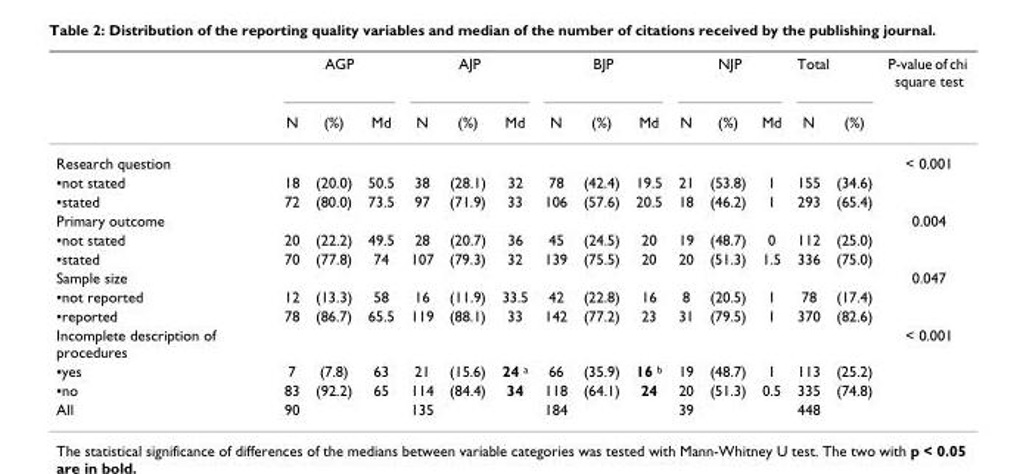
<table><thead><tr><td rowspan="2"></td><td colspan="3">AGP</td><td colspan="3">AJP</td><td colspan="3">BJP</td><td colspan="3">NJP</td><td colspan="2">Total</td><td rowspan="2">P-value of chi square test</td></tr><tr><td>N</td><td>(%)</td><td>Md</td><td>N</td><td>(%)</td><td>Md</td><td>N</td><td>(%)</td><td>Md</td><td>N</td><td>(%)</td><td>Md</td><td>N</td><td>(%)</td></tr></thead><tbody><tr><td>Research question</td><td></td><td></td><td></td><td></td><td></td><td></td><td></td><td></td><td></td><td></td><td></td><td></td><td></td><td></td><td>&lt; 0.001</td></tr><tr><td>▪not stated</td><td>18</td><td>(20.0)</td><td>50.5</td><td>38</td><td>(28.1)</td><td>32</td><td>78</td><td>(42.4)</td><td>19.5</td><td>21</td><td>(53.8)</td><td>1</td><td>155</td><td>(34.6)</td><td></td></tr><tr><td>▪stated</td><td>72</td><td>(80.0)</td><td>73.5</td><td>97</td><td>(71.9)</td><td>33</td><td>106</td><td>(57.6)</td><td>20.5</td><td>18</td><td>(46.2)</td><td>1</td><td>293</td><td>(65.4)</td><td></td></tr><tr><td>Primary outcome</td><td></td><td></td><td></td><td></td><td></td><td></td><td></td><td></td><td></td><td></td><td></td><td></td><td></td><td></td><td>0.004</td></tr><tr><td>▪not stated</td><td>20</td><td>(22.2)</td><td>49.5</td><td>28</td><td>(20.7)</td><td>36</td><td>45</td><td>(24.5)</td><td>20</td><td>19</td><td>(48.7)</td><td>0</td><td>112</td><td>(25.0)</td><td></td></tr><tr><td>▪stated</td><td>70</td><td>(77.8)</td><td>74</td><td>107</td><td>(79.3)</td><td>32</td><td>139</td><td>(75.5)</td><td>20</td><td>20</td><td>(51.3)</td><td>1.5</td><td>336</td><td>(75.0)</td><td></td></tr><tr><td>Sample size</td><td></td><td></td><td></td><td></td><td></td><td></td><td></td><td></td><td></td><td></td><td></td><td></td><td></td><td></td><td>0.047</td></tr><tr><td>▪not reported</td><td>12</td><td>(13.3)</td><td>58</td><td>16</td><td>(11.9)</td><td>33.5</td><td>42</td><td>(22.8)</td><td>16</td><td>8</td><td>(20.5)</td><td>1</td><td>78</td><td>(17.4)</td><td></td></tr><tr><td>▪reported</td><td>78</td><td>(86.7)</td><td>65.5</td><td>119</td><td>(88.1)</td><td>33</td><td>142</td><td>(77.2)</td><td>23</td><td>31</td><td>(79.5)</td><td>1</td><td>370</td><td>(82.6)</td><td></td></tr><tr><td>Incomplete description of procedures</td><td></td><td></td><td></td><td></td><td></td><td></td><td></td><td></td><td></td><td></td><td></td><td></td><td></td><td></td><td>&lt; 0.001</td></tr><tr><td>▪yes</td><td>7</td><td>(7.8)</td><td>63</td><td>21</td><td>(15.6)</td><td>24 <sup>a</sup></td><td>66</td><td>(35.9)</td><td>16 <sup>b</sup></td><td>19</td><td>(48.7)</td><td>1</td><td>113</td><td>(25.2)</td><td></td></tr><tr><td>▪no</td><td>83</td><td>(92.2)</td><td>65</td><td>114</td><td>(84.4)</td><td>34</td><td>118</td><td>(64.1)</td><td>24</td><td>20</td><td>(51.3)</td><td>0.5</td><td>335</td><td>(74.8)</td><td></td></tr><tr><td>All</td><td>90</td><td></td><td></td><td>135</td><td></td><td></td><td>184</td><td></td><td></td><td>39</td><td></td><td></td><td>448</td><td></td><td></td></tr></tbody></table>